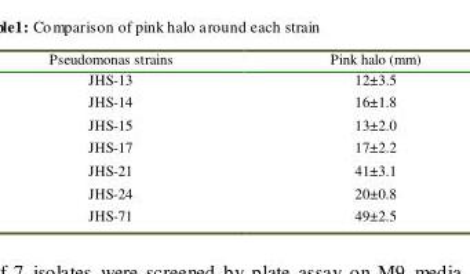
<table><thead><tr><td>Pseudomonas strains</td><td>Pink halo (mm)</td></tr></thead><tbody><tr><td>JHS-13</td><td>12±3.5</td></tr><tr><td>JHS-14</td><td>16±1.8</td></tr><tr><td>JHS-15</td><td>13±2.0</td></tr><tr><td>JHS-17</td><td>17±2.2</td></tr><tr><td>JHS-21</td><td>41±3.1</td></tr><tr><td>JHS-24</td><td>20±0.8</td></tr><tr><td>JHS-71</td><td>49±2.5</td></tr></tbody></table>